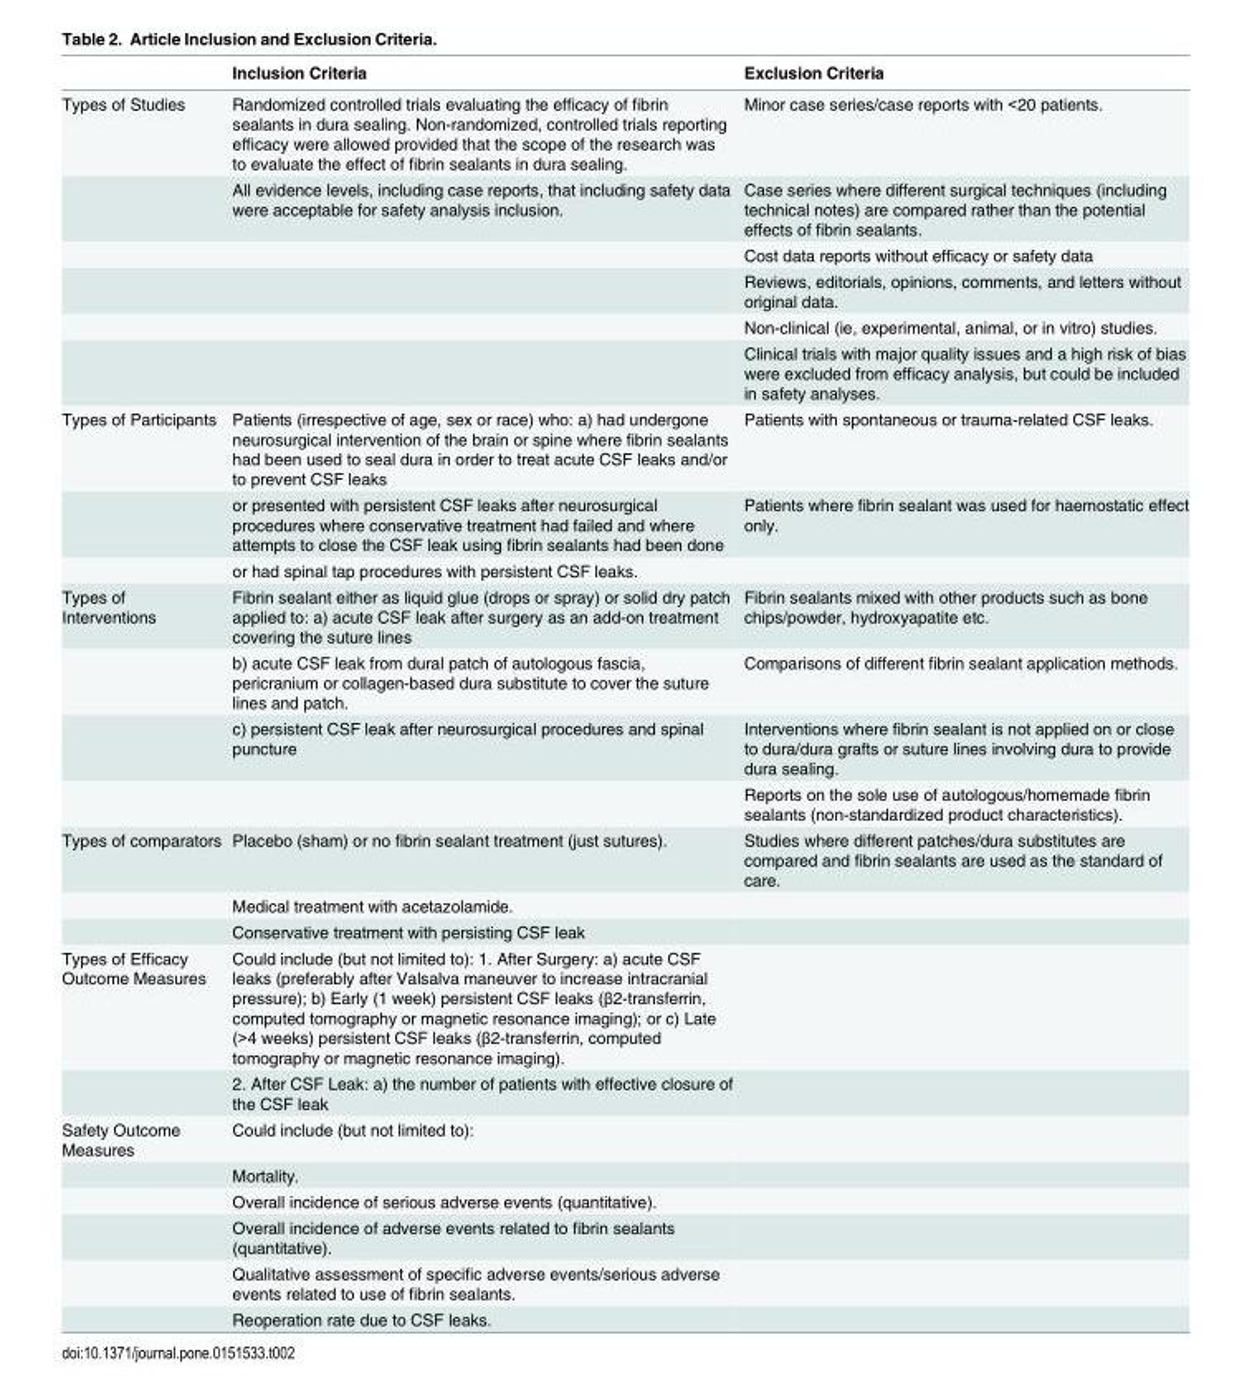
<table><thead><tr><td></td><td>Inclusion Criteria</td><td>Exclusion Criteria</td></tr></thead><tbody><tr><td rowspan="6">Types of Studies</td><td>Randomized controlled trials evaluating the efficacy of fibrin sealants in dura sealing. Non-randomized, controlled trials reporting efficacy were allowed provided that the scope of the research was to evaluate the effect of fibrin sealants in dura sealing.</td><td>Minor case series/case reports with &lt;20 patients.</td></tr><tr><td>All evidence levels, including case reports, that including safety data were acceptable for safety analysis inclusion.</td><td>Case series where different surgical techniques (including technical notes) are compared rather than the potential effects of fibrin sealants.</td></tr><tr><td></td><td>Cost data reports without efficacy or safety data</td></tr><tr><td></td><td>Reviews, editorials, opinions, comments, and letters without original data.</td></tr><tr><td></td><td>Non-clinical (ie, experimental, animal, or in vitro) studies.</td></tr><tr><td></td><td>Clinical trials with major quality issues and a high risk of bias were excluded from efficacy analysis, but could be included in safety analyses.</td></tr><tr><td rowspan="3">Types of Participants</td><td>Patients (irrespective of age, sex or race) who: a) had undergone neurosurgical intervention of the brain or spine where fibrin sealants had been used to seal dura in order to treat acute CSF leaks and/or to prevent CSF leaks</td><td>Patients with spontaneous or trauma-related CSF leaks.</td></tr><tr><td>or presented with persistent CSF leaks after neurosurgical procedures where conservative treatment had failed and where attempts to close the CSF leak using fibrin sealants had been done</td><td>Patients where fibrin sealant was used for haemostatic effect only.</td></tr><tr><td>or had spinal tap procedures with persistent CSF leaks.</td><td></td></tr><tr><td rowspan="4">Types of Interventions</td><td>Fibrin sealant either as liquid glue (drops or spray) or solid dry patch applied to: a) acute CSF leak after surgery as an add-on treatment covering the suture lines</td><td>Fibrin sealants mixed with other products such as bone chips/powder, hydroxyapatite etc.</td></tr><tr><td>b) acute CSF leak from dural patch of autologous fascia, pericranium or collagen-based dura substitute to cover the suture lines and patch.</td><td>Comparisons of different fibrin sealant application methods.</td></tr><tr><td>c) persistent CSF leak after neurosurgical procedures and spinal puncture</td><td>Interventions where fibrin sealant is not applied on or close to dura/dura grafts or suture lines involving dura to provide dura sealing.</td></tr><tr><td></td><td>Reports on the sole use of autologous/homemade fibrin sealants (non-standardized product characteristics).</td></tr><tr><td rowspan="3">Types of comparators</td><td>Placebo (sham) or no fibrin sealant treatment (just sutures).</td><td>Studies where different patches/dura substitutes are compared and fibrin sealants are used as the standard of care.</td></tr><tr><td>Medical treatment with acetazolamide.</td><td></td></tr><tr><td>Conservative treatment with persisting CSF leak</td><td></td></tr><tr><td rowspan="2">Types of Efficacy Outcome Measures</td><td>Could include (but not limited to): 1. After Surgery: a) acute CSF leaks (preferably after Valsalva maneuver to increase intracranial pressure); b) Early (1 week) persistent CSF leaks (β2-transferrin, computed tomography or magnetic resonance imaging); or c) Late (&gt;4 weeks) persistent CSF leaks (β2-transferrin, computed tomography or magnetic resonance imaging).</td><td></td></tr><tr><td>2. After CSF Leak: a) the number of patients with effective closure of the CSF leak</td><td></td></tr><tr><td rowspan="6">Safety Outcome Measures</td><td>Could include (but not limited to):</td><td></td></tr><tr><td>Mortality.</td><td></td></tr><tr><td>Overall incidence of serious adverse events (quantitative).</td><td></td></tr><tr><td>Overall incidence of adverse events related to fibrin sealants (quantitative).</td><td></td></tr><tr><td>Qualitative assessment of specific adverse events/serious adverse events related to use of fibrin sealants.</td><td></td></tr><tr><td>Reoperation rate due to CSF leaks.</td><td></td></tr></tbody></table>